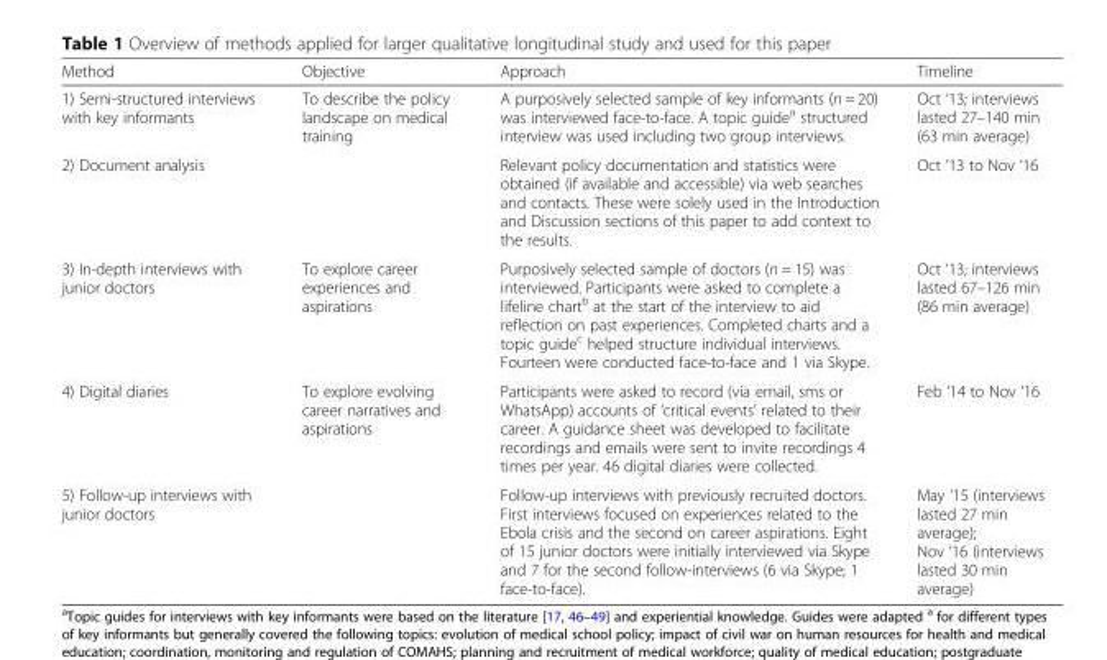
<table><thead><tr><td>Method</td><td>Objective</td><td>Approach</td><td>Timeline</td></tr></thead><tbody><tr><td>1) Semi-structured interviews with key informants</td><td rowspan="2">To describe the policy landscape on medical training</td><td>A purposively selected sample of key informants (n = 20) was interviewed face-to-face. A topic guide<sup>a</sup> structured interview was used including two group interviews.</td><td>Oct ‘13; interviews lasted 27–140 min (63 min average)</td></tr><tr><td>2) Document analysis</td><td>Relevant policy documentation and statistics were obtained (if available and accessible) via web searches and contacts. These were solely used in the Introduction and Discussion sections of this paper to add context to the results.</td><td>Oct ‘13 to Nov ‘16</td></tr><tr><td>3) In-depth interviews with junior doctors</td><td>To explore career experiences and aspirations</td><td>Purposively selected sample of doctors (n = 15) was interviewed. Participants were asked to complete a lifeline chart<sup>b</sup> at the start of the interview to aid reflection on past experiences. Completed charts and a topic guide<sup>c</sup> helped structure individual interviews. Fourteen were conducted face-to-face and 1 via Skype.</td><td>Oct ‘13; interviews lasted 67–126 min (86 min average)</td></tr><tr><td>4) Digital diaries</td><td rowspan="2">To explore evolving career narratives and aspirations</td><td>Participants were asked to record (via email, sms or WhatsApp) accounts of ‘critical events’ related to their career. A guidance sheet was developed to facilitate recordings and emails were sent to invite recordings 4 times per year. 46 digital diaries were collected.</td><td>Feb ‘14 to Nov ‘16</td></tr><tr><td>5) Follow-up interviews with junior doctors</td><td>Follow-up interviews with previously recruited doctors. First interviews focused on experiences related to the Ebola crisis and the second on career aspirations. Eight of 15 junior doctors were initially interviewed via Skype and 7 for the second follow-interviews (6 via Skype; 1 face-to-face).</td><td>May ‘15 (interviews lasted 27 min average); Nov ‘16 (interviews lasted 30 min average)</td></tr></tbody></table>